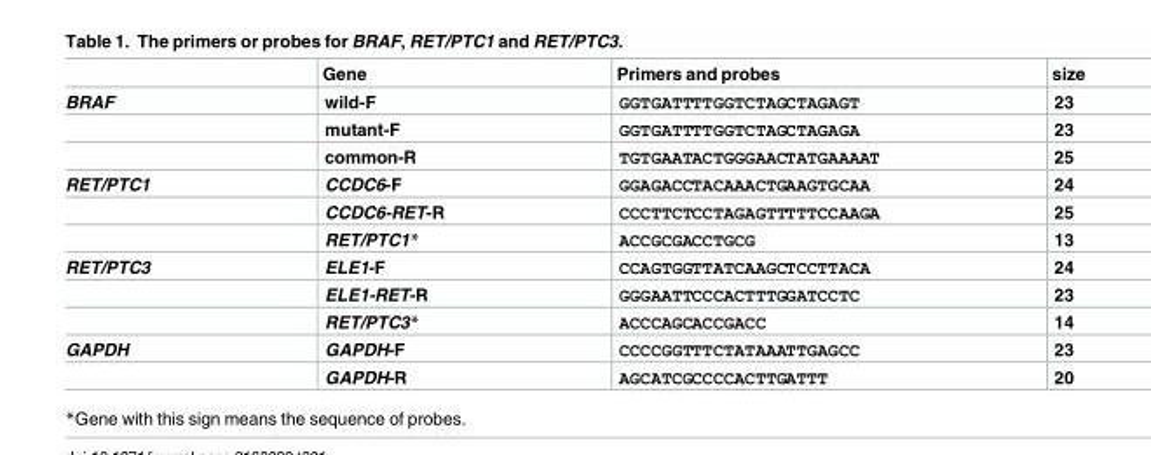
<table><thead><tr><td></td><td>Gene</td><td>Primers and probes</td><td>size</td></tr></thead><tbody><tr><td rowspan="3">BRAF</td><td>wild-F</td><td>GGTGATTTTGGTCTAGCTAGAGT</td><td>23</td></tr><tr><td>mutant-F</td><td>GGTGATTTTGGTCTAGCTAGAGA</td><td>23</td></tr><tr><td>common-R</td><td>TGTGAATACTGGGAACTATGAAAAT</td><td>25</td></tr><tr><td rowspan="3">RET/PTC1</td><td>CCDC6-F</td><td>GGAGACCTACAAACTGAAGTGCAA</td><td>24</td></tr><tr><td>CCDC6-RET-R</td><td>CCCTTCTCCTAGAGTTTTTCCAAGA</td><td>25</td></tr><tr><td>RET/PTC1*</td><td>ACCGCGACCTGCG</td><td>13</td></tr><tr><td rowspan="3">RET/PTC3</td><td>ELE1-F</td><td>CCAGTGGTTATCAAGCTCCTTACA</td><td>24</td></tr><tr><td>ELE1-RET-R</td><td>GGGAATTCCCACTTTGGATCCTC</td><td>23</td></tr><tr><td>RET/PTC3*</td><td>ACCCAGCACCGACC</td><td>14</td></tr><tr><td rowspan="2">GAPDH</td><td>GAPDH-F</td><td>CCCCGGTTTCTATAAATTGAGCC</td><td>23</td></tr><tr><td>GAPDH-R</td><td>AGCATCGCCCCACTTGATTT</td><td>20</td></tr></tbody></table>